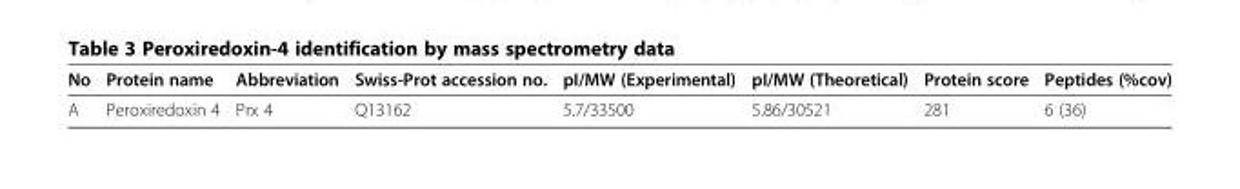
<table><thead><tr><td>No</td><td>Protein name</td><td>Abbreviation</td><td>Swiss-Prot accession no.</td><td>pI/MW (Experimental)</td><td>pI/MW (Theoretical)</td><td>Protein score</td><td>Peptides (%cov)</td></tr></thead><tbody><tr><td>A</td><td>Peroxiredoxin 4</td><td>Prx 4</td><td>Q13162</td><td>5.7/33500</td><td>5.86/30521</td><td>281</td><td>6 (36)</td></tr></tbody></table>